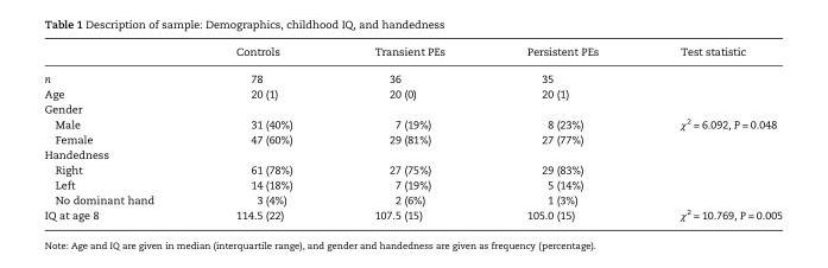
<table><thead><tr><td></td><td>Controls</td><td>Transient PEs</td><td>Persistent PEs</td><td>Test statistic</td></tr></thead><tbody><tr><td>n</td><td>78</td><td>36</td><td>35</td><td></td></tr><tr><td>Age</td><td>20 (1)</td><td>20 (0)</td><td>20 (1)</td><td></td></tr><tr><td colspan="5">Gender</td></tr><tr><td>Male</td><td>31 (40%)</td><td>7 (19%)</td><td>8 (23%)</td><td rowspan="2">χ<sup>2</sup> = 6.092, P = 0.048</td></tr><tr><td>Female</td><td>47 (60%)</td><td>29 (81%)</td><td>27 (77%)</td></tr><tr><td colspan="5">Handedness</td></tr><tr><td>Right</td><td>61 (78%)</td><td>27 (75%)</td><td>29 (83%)</td><td></td></tr><tr><td>Left</td><td>14 (18%)</td><td>7 (19%)</td><td>5 (14%)</td><td></td></tr><tr><td>No dominant hand</td><td>3 (4%)</td><td>2 (6%)</td><td>1 (3%)</td><td></td></tr><tr><td>IQ at age 8</td><td>114.5 (22)</td><td>107.5 (15)</td><td>105.0 (15)</td><td>χ<sup>2</sup> = 10.769, P = 0.005</td></tr></tbody></table>